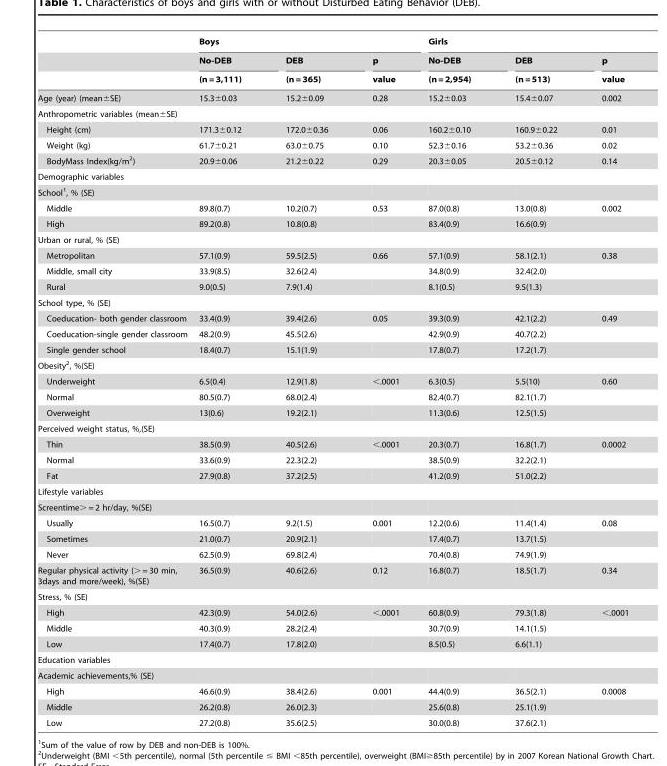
<table><thead><tr><td rowspan="3"></td><td colspan="3">Boys</td><td colspan="3">Girls</td></tr><tr><td rowspan="2">No-DEB (n = 3,111)</td><td rowspan="2">DEB (n = 365)</td><td rowspan="2">p value</td><td rowspan="2">No-DEB (n = 2,954)</td><td rowspan="2">DEB (n = 513)</td><td rowspan="2">p value</td></tr><tr></tr></thead><tbody><tr><td>Age (year) (mean±SE)</td><td>15.3±0.03</td><td>15.2±0.09</td><td>0.28</td><td>15.2±0.03</td><td>15.4±0.07</td><td>0.002</td></tr><tr><td colspan="7">Anthropometric variables (mean±SE)</td></tr><tr><td>Height (cm)</td><td>171.3±0.12</td><td>172.0±0.36</td><td>0.06</td><td>160.2±0.10</td><td>160.9±0.22</td><td>0.01</td></tr><tr><td>Weight (kg)</td><td>61.7±0.21</td><td>63.0±0.75</td><td>0.10</td><td>52.3±0.16</td><td>53.2±0.36</td><td>0.02</td></tr><tr><td>BodyMass Index(kg/m<sup>2</sup>)</td><td>20.9±0.06</td><td>21.2±0.22</td><td>0.29</td><td>20.3±0.05</td><td>20.5±0.12</td><td>0.14</td></tr><tr><td colspan="7">Demographic variables</td></tr><tr><td colspan="7">School<sup>1</sup>, % (SE)</td></tr><tr><td>Middle</td><td>89.8(0.7)</td><td>10.2(0.7)</td><td>0.53</td><td>87.0(0.8)</td><td>13.0(0.8)</td><td>0.002</td></tr><tr><td>High</td><td>89.2(0.8)</td><td>10.8(0.8)</td><td></td><td>83.4(0.9)</td><td>16.6(0.9)</td><td></td></tr><tr><td colspan="7">Urban or rural, % (SE)</td></tr><tr><td>Metropolitan</td><td>57.1(0.9)</td><td>59.5(2.5)</td><td>0.66</td><td>57.1(0.9)</td><td>58.1(2.1)</td><td>0.38</td></tr><tr><td>Middle, small city</td><td>33.9(8.5)</td><td>32.6(2.4)</td><td></td><td>34.8(0.9)</td><td>32.4(2.0)</td><td></td></tr><tr><td>Rural</td><td>9.0(0.5)</td><td>7.9(1.4)</td><td></td><td>8.1(0.5)</td><td>9.5(1.3)</td><td></td></tr><tr><td colspan="7">School type, % (SE)</td></tr><tr><td>Coeducation- both gender classroom</td><td>33.4(0.9)</td><td>39.4(2.6)</td><td>0.05</td><td>39.3(0.9)</td><td>42.1(2.2)</td><td>0.49</td></tr><tr><td>Coeducation-single gender classroom</td><td>48.2(0.9)</td><td>45.5(2.6)</td><td></td><td>42.9(0.9)</td><td>40.7(2.2)</td><td></td></tr><tr><td>Single gender school</td><td>18.4(0.7)</td><td>15.1(1.9)</td><td></td><td>17.8(0.7)</td><td>17.2(1.7)</td><td></td></tr><tr><td colspan="7">Obesity<sup>2</sup>, %(SE)</td></tr><tr><td>Underweight</td><td>6.5(0.4)</td><td>12.9(1.8)</td><td>&lt;.0001</td><td>6.3(0.5)</td><td>5.5(10)</td><td>0.60</td></tr><tr><td>Normal</td><td>80.5(0.7)</td><td>68.0(2.4)</td><td></td><td>82.4(0.7)</td><td>82.1(1.7)</td><td></td></tr><tr><td>Overweight</td><td>13(0.6)</td><td>19.2(2.1)</td><td></td><td>11.3(0.6)</td><td>12.5(1.5)</td><td></td></tr><tr><td colspan="7">Perceived weight status, %,(SE)</td></tr><tr><td>Thin</td><td>38.5(0.9)</td><td>40.5(2.6)</td><td>&lt;.0001</td><td>20.3(0.7)</td><td>16.8(1.7)</td><td>0.0002</td></tr><tr><td>Normal</td><td>33.6(0.9)</td><td>22.3(2.2)</td><td></td><td>38.5(0.9)</td><td>32.2(2.1)</td><td></td></tr><tr><td>Fat</td><td>27.9(0.8)</td><td>37.2(2.5)</td><td></td><td>41.2(0.9)</td><td>51.0(2.2)</td><td></td></tr><tr><td colspan="7">Lifestyle variables</td></tr><tr><td colspan="7">Screentime&gt; = 2 hr/day, %(SE)</td></tr><tr><td>Usually</td><td>16.5(0.7)</td><td>9.2(1.5)</td><td>0.001</td><td>12.2(0.6)</td><td>11.4(1.4)</td><td>0.08</td></tr><tr><td>Sometimes</td><td>21.0(0.7)</td><td>20.9(2.1)</td><td></td><td>17.4(0.7)</td><td>13.7(1.5)</td><td></td></tr><tr><td>Never</td><td>62.5(0.9)</td><td>69.8(2.4)</td><td></td><td>70.4(0.8)</td><td>74.9(1.9)</td><td></td></tr><tr><td>Regular physical activity (&gt; = 30 min, 3days and more/week), %(SE)</td><td>36.5(0.9)</td><td>40.6(2.6)</td><td>0.12</td><td>16.8(0.7)</td><td>18.5(1.7)</td><td>0.34</td></tr><tr><td colspan="7">Stress, % (SE)</td></tr><tr><td>High</td><td>42.3(0.9)</td><td>54.0(2.6)</td><td>&lt;.0001</td><td>60.8(0.9)</td><td>79.3(1.8)</td><td>&lt;.0001</td></tr><tr><td>Middle</td><td>40.3(0.9)</td><td>28.2(2.4)</td><td></td><td>30.7(0.9)</td><td>14.1(1.5)</td><td></td></tr><tr><td>Low</td><td>17.4(0.7)</td><td>17.8(2.0)</td><td></td><td>8.5(0.5)</td><td>6.6(1.1)</td><td></td></tr><tr><td colspan="7">Education variables</td></tr><tr><td colspan="7">Academic achievements,% (SE)</td></tr><tr><td>High</td><td>46.6(0.9)</td><td>38.4(2.6)</td><td>0.001</td><td>44.4(0.9)</td><td>36.5(2.1)</td><td>0.0008</td></tr><tr><td>Middle</td><td>26.2(0.8)</td><td>26.0(2.3)</td><td></td><td>25.6(0.8)</td><td>25.1(1.9)</td><td></td></tr><tr><td>Low</td><td>27.2(0.8)</td><td>35.6(2.5)</td><td></td><td>30.0(0.8)</td><td>37.6(2.1)</td><td></td></tr></tbody></table>